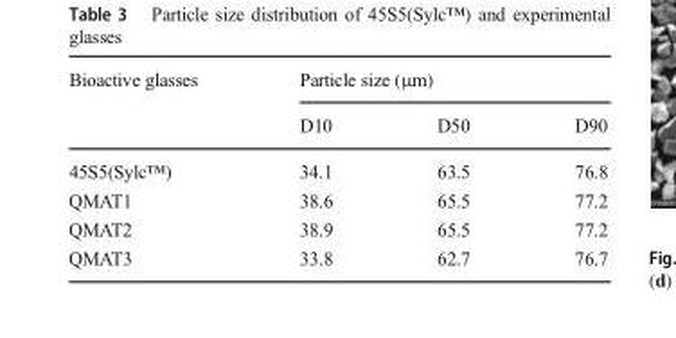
<table><thead><tr><td rowspan="2">Bioactive glasses</td><td colspan="3">Particle size (μm)</td></tr><tr><td>D10</td><td>D50</td><td>D90</td></tr></thead><tbody><tr><td>45S5(Sylc™)</td><td>34.1</td><td>63.5</td><td>76.8</td></tr><tr><td>QMAT1</td><td>38.6</td><td>65.5</td><td>77.2</td></tr><tr><td>QMAT2</td><td>38.9</td><td>65.5</td><td>77.2</td></tr><tr><td>QMAT3</td><td>33.8</td><td>62.7</td><td>76.7</td></tr></tbody></table>